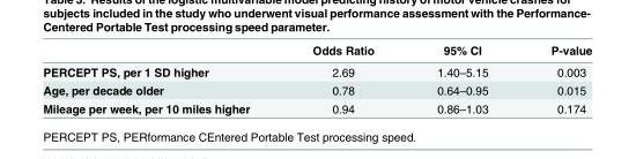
<table><thead><tr><td></td><td>Odds Ratio</td><td>95% CI</td><td>P-value</td></tr></thead><tbody><tr><td>PERCEPT PS, per 1 SD higher</td><td>2.69</td><td>1.40–5.15</td><td>0.003</td></tr><tr><td>Age, per decade older</td><td>0.78</td><td>0.64–0.95</td><td>0.015</td></tr><tr><td>Mileage per week, per 10 miles higher</td><td>0.94</td><td>0.86–1.03</td><td>0.174</td></tr></tbody></table>